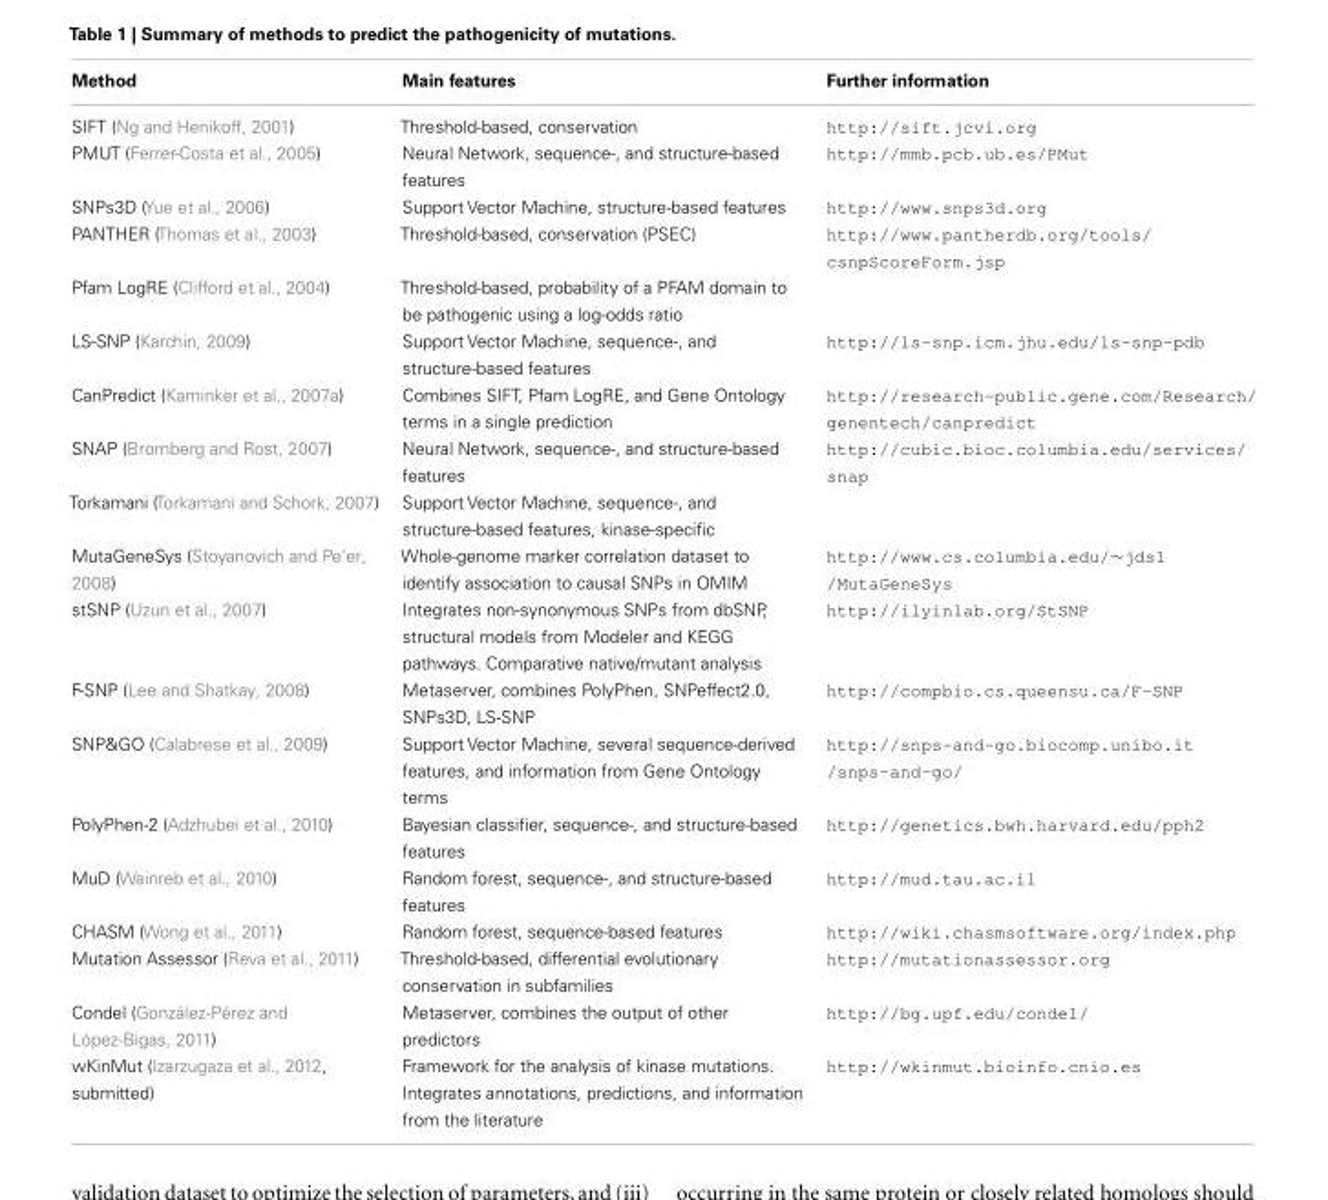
<table><thead><tr><td>Method</td><td>Main features</td><td>Further information</td></tr></thead><tbody><tr><td>SIFT (Ng and Henikoff, 2001)</td><td>Threshold-based, conservation</td><td>http://sift.jcvi.org</td></tr><tr><td>PMUT (Ferrer-Costa et al., 2005)</td><td>Neural Network, sequence-, and structure-based features</td><td>http://mmb.pcb.ub.es/PMut</td></tr><tr><td>SNPs3D (Yue et al., 2006)</td><td>Support Vector Machine, structure-based features</td><td>http://www.snps3d.org</td></tr><tr><td>PANTHER (Thomas et al., 2003)</td><td>Threshold-based, conservation (PSEC)</td><td>http://www.pantherdb.org/tools/ csnpScoreForm.jsp</td></tr><tr><td>Pfam LogRE (Clifford et al., 2004)</td><td>Threshold-based, probability of a PFAM domain to be pathogenic using a log-odds ratio</td><td></td></tr><tr><td>LS-SNP (Karchin, 2009)</td><td>Support Vector Machine, sequence-, and structure-based features</td><td>http://ls-snp.icm.jhu.edu/ls-snp-pdb</td></tr><tr><td>CanPredict (Kaminker et al., 2007a)</td><td>Combines SIFT, Pfam LogRE, and Gene Ontology terms in a single prediction</td><td>http://research-public.gene.com/Research/ genentech/canpredict</td></tr><tr><td>SNAP (Bromberg and Rost, 2007)</td><td>Neural Network, sequence-, and structure-based features</td><td>http://cubic.bioc.columbia.edu/services/ snap</td></tr><tr><td>Torkamani (Torkamani and Schork, 2007)</td><td>Support Vector Machine, sequence-, and structure-based features, kinase-specific</td><td></td></tr><tr><td>MutaGeneSys (Stoyanovich and Pe’er, 2008)</td><td>Whole-genome marker correlation dataset to identify association to causal SNPs in OMIM</td><td>http://www.cs.columbia.edu/∼jds1 /MutaGeneSys</td></tr><tr><td>stSNP (Uzun et al., 2007)</td><td>Integrates non-synonymous SNPs from dbSNP, structural models from Modeler and KEGG pathways. Comparative native/mutant analysis</td><td>http://ilyinlab.org/StSNP</td></tr><tr><td>F-SNP (Lee and Shatkay, 2008)</td><td>Metaserver, combines PolyPhen, SNPeffect2.0, SNPs3D, LS-SNP</td><td>http://compbio.cs.queensu.ca/F-SNP</td></tr><tr><td>SNP&amp;GO (Calabrese et al., 2009)</td><td>Support Vector Machine, several sequence-derived features, and information from Gene Ontology terms</td><td>http://snps-and-go.biocomp.unibo.it /snps-and-go/</td></tr><tr><td>PolyPhen-2 (Adzhubei et al., 2010)</td><td>Bayesian classifier, sequence-, and structure-based features</td><td>http://genetics.bwh.harvard.edu/pph2</td></tr><tr><td>MuD (Wainreb et al., 2010)</td><td>Random forest, sequence-, and structure-based features</td><td>http://mud.tau.ac.il</td></tr><tr><td>CHASM (Wong et al., 2011)</td><td>Random forest, sequence-based features</td><td>http://wiki.chasmsoftware.org/index.php</td></tr><tr><td>Mutation Assessor (Reva et al., 2011)</td><td>Threshold-based, differential evolutionary conservation in subfamilies</td><td>http://mutationassessor.org</td></tr><tr><td>Condel (González-Pérez and López-Bigas, 2011)</td><td>Metaserver, combines the output of other predictors</td><td>http://bg.upf.edu/condel/</td></tr><tr><td>wKinMut (Izarzugaza et al., 2012, submitted)</td><td>Framework for the analysis of kinase mutations. Integrates annotations, predictions, and information from the literature</td><td>http://wkinmut.bioinfo.cnio.es</td></tr></tbody></table>